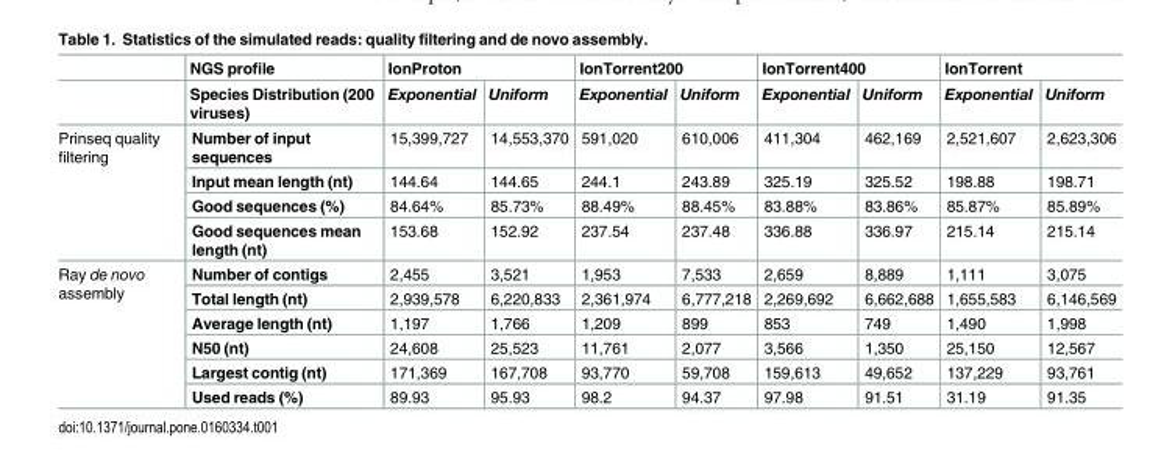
<table><thead><tr><td rowspan="2"></td><td rowspan="2">NGS profile Species Distribution (200 viruses)</td><td colspan="2">IonProton</td><td colspan="2">IonTorrent200</td><td colspan="2">IonTorrent400</td><td colspan="2">IonTorrent</td></tr><tr><td>Exponential</td><td>Uniform</td><td>Exponential</td><td>Uniform</td><td>Exponential</td><td>Uniform</td><td>Exponential</td><td>Uniform</td></tr></thead><tbody><tr><td rowspan="4">Prinseq quality filtering</td><td>Number of input sequences</td><td>15,399,727</td><td>14,553,370</td><td>591,020</td><td>610,006</td><td>411,304</td><td>462,169</td><td>2,521,607</td><td>2,623,306</td></tr><tr><td>Input mean length (nt)</td><td>144.64</td><td>144.65</td><td>244.1</td><td>243.89</td><td>325.19</td><td>325.52</td><td>198.88</td><td>198.71</td></tr><tr><td>Good sequences (%)</td><td>84.64%</td><td>85.73%</td><td>88.49%</td><td>88.45%</td><td>83.88%</td><td>83.86%</td><td>85.87%</td><td>85.89%</td></tr><tr><td>Good sequences mean length (nt)</td><td>153.68</td><td>152.92</td><td>237.54</td><td>237.48</td><td>336.88</td><td>336.97</td><td>215.14</td><td>215.14</td></tr><tr><td rowspan="6">Ray de novo assembly</td><td>Number of contigs</td><td>2,455</td><td>3,521</td><td>1,953</td><td>7,533</td><td>2,659</td><td>8,889</td><td>1,111</td><td>3,075</td></tr><tr><td>Total length (nt)</td><td>2,939,578</td><td>6,220,833</td><td>2,361,974</td><td>6,777,218</td><td>2,269,692</td><td>6,662,688</td><td>1,655,583</td><td>6,146,569</td></tr><tr><td>Average length (nt)</td><td>1,197</td><td>1,766</td><td>1,209</td><td>899</td><td>853</td><td>749</td><td>1,490</td><td>1,998</td></tr><tr><td>N50 (nt)</td><td>24,608</td><td>25,523</td><td>11,761</td><td>2,077</td><td>3,566</td><td>1,350</td><td>25,150</td><td>12,567</td></tr><tr><td>Largest contig (nt)</td><td>171,369</td><td>167,708</td><td>93,770</td><td>59,708</td><td>159,613</td><td>49,652</td><td>137,229</td><td>93,761</td></tr><tr><td>Used reads (%)</td><td>89.93</td><td>95.93</td><td>98.2</td><td>94.37</td><td>97.98</td><td>91.51</td><td>31.19</td><td>91.35</td></tr></tbody></table>